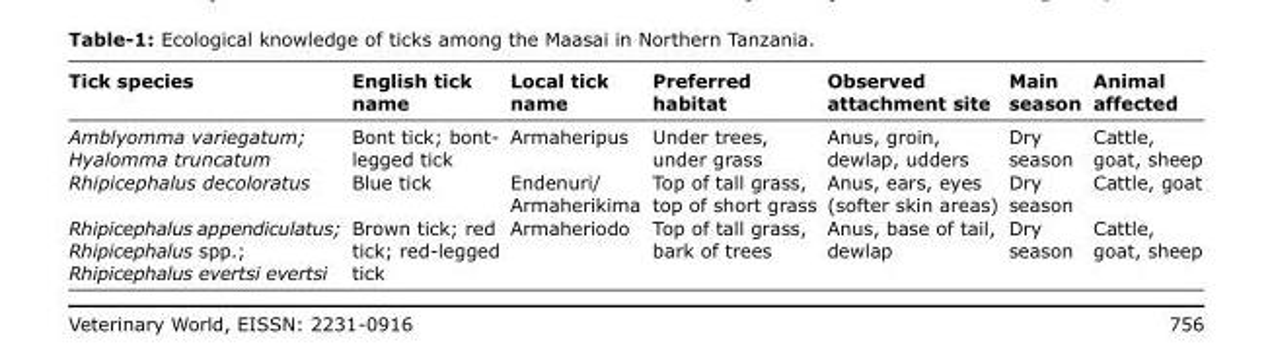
<table><thead><tr><td>Tick species</td><td>English tick name</td><td>Local tick name</td><td>Preferred habitat</td><td>Observed attachment site</td><td>Main season</td><td>Animal affected</td></tr></thead><tbody><tr><td>Amblyomma variegatum; Hyalomma truncatum</td><td>Bont tick; bont- legged tick</td><td>Armaheripus</td><td>Under trees, under grass</td><td>Anus, groin, dewlap, udders</td><td>Dry season</td><td>Cattle, goat, sheep</td></tr><tr><td>Rhipicephalus decoloratus</td><td>Blue tick</td><td>Endenuri/ Armaherikima</td><td>Top of tall grass, top of short grass</td><td>Anus, ears, eyes (softer skin areas)</td><td>Dry season</td><td>Cattle, goat</td></tr><tr><td>Rhipicephalus appendiculatus; Rhipicephalus spp.; Rhipicephalus evertsi evertsi</td><td>Brown tick; red tick; red-legged tick</td><td>Armaheriodo</td><td>Top of tall grass, bark of trees</td><td>Anus, base of tail, dewlap</td><td>Dry season</td><td>Cattle, goat, sheep</td></tr></tbody></table>